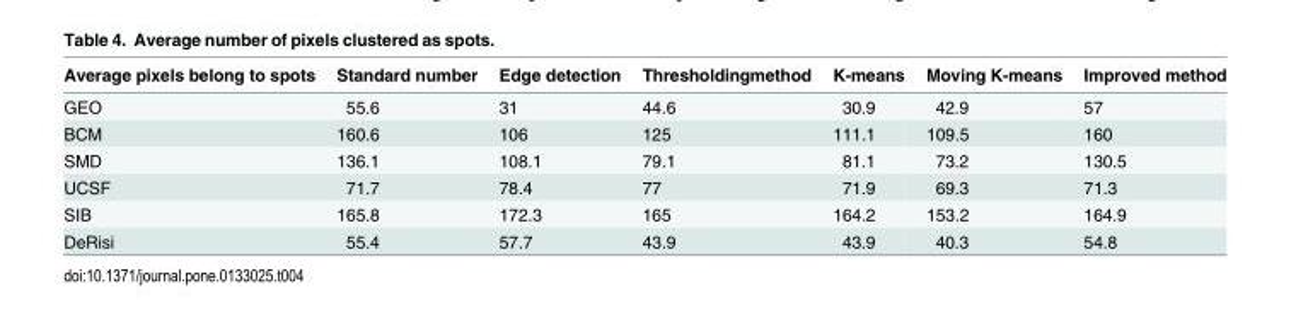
<table><thead><tr><td>Average pixels belong to spots</td><td>Standard number</td><td>Edge detection</td><td>Thresholdingmethod</td><td>K-means</td><td>Moving K-means</td><td>Improved method</td></tr></thead><tbody><tr><td>GEO</td><td>55.6</td><td>31</td><td>44.6</td><td>30.9</td><td>42.9</td><td>57</td></tr><tr><td>BCM</td><td>160.6</td><td>106</td><td>125</td><td>111.1</td><td>109.5</td><td>160</td></tr><tr><td>SMD</td><td>136.1</td><td>108.1</td><td>79.1</td><td>81.1</td><td>73.2</td><td>130.5</td></tr><tr><td>UCSF</td><td>71.7</td><td>78.4</td><td>77</td><td>71.9</td><td>69.3</td><td>71.3</td></tr><tr><td>SIB</td><td>165.8</td><td>172.3</td><td>165</td><td>164.2</td><td>153.2</td><td>164.9</td></tr><tr><td>DeRisi</td><td>55.4</td><td>57.7</td><td>43.9</td><td>43.9</td><td>40.3</td><td>54.8</td></tr></tbody></table>